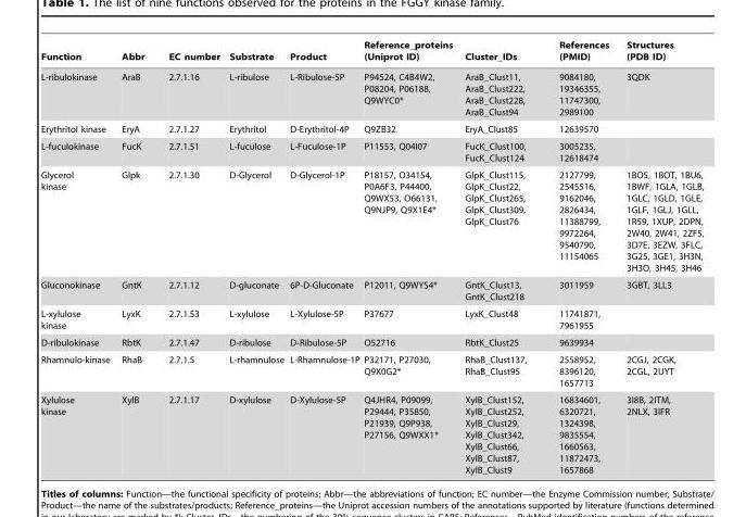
<table><thead><tr><td>Function</td><td>Abbr</td><td>EC number</td><td>Substrate</td><td>Product</td><td>Reference_proteins (Uniprot ID)</td><td>Cluster_IDs</td><td>References (PMID)</td><td>Structures (PDB ID)</td></tr></thead><tbody><tr><td>L-ribulokinase</td><td>AraB</td><td>2.7.1.16</td><td>L-ribulose</td><td>L-Ribulose-5P</td><td>P94524, C4B4W2, P08204, P06188, Q9WYC0*</td><td>AraB_Clust11, AraB_Clust222, AraB_Clust228, AraB_Clust94</td><td>9084180, 19346355, 11747300, 2989100</td><td>3QDK</td></tr><tr><td>Erythritol kinase</td><td>EryA</td><td>2.7.1.27</td><td>Erythritol</td><td>D-Erythritol-4P</td><td>Q9ZB32</td><td>EryA_Clust85</td><td>12639570</td><td></td></tr><tr><td>L-fuculokinase</td><td>FucK</td><td>2.7.1.51</td><td>L-fuculose</td><td>L-Fuculose-1P</td><td>P11553, Q04I07</td><td>FucK_Clust100, FucK_Clust124</td><td>3005235, 12618474</td><td></td></tr><tr><td>Glycerol kinase</td><td>Glpk</td><td>2.7.1.30</td><td>D-Glycerol</td><td>D-Glycerol-1P</td><td>P18157, O34154, P0A6F3, P44400, Q9WX53, O66131, Q9NJP9, Q9X1E4*</td><td>GlpK_Clust115, GlpK_Clust22, GlpK_Clust265, GlpK_Clust309, GlpK_Clust76</td><td>2127799, 2545516, 9162046, 2826434, 11388799, 9972264, 9540790, 11154065</td><td>1BO5, 1BOT, 1BU6, 1BWF, 1GLA, 1GLB, 1GLC, 1GLD, 1GLE, 1GLF, 1GLJ, 1GLL, 1R59, 1XUP, 2DPN, 2W40, 2W41, 2ZF5, 3D7E, 3EZW, 3FLC, 3G25, 3GE1, 3H3N, 3H3O, 3H45, 3H46</td></tr><tr><td>Gluconokinase</td><td>GntK</td><td>2.7.1.12</td><td>D-gluconate</td><td>6P-D-Gluconate</td><td>P12011, Q9WYS4*</td><td>GntK_Clust13, GntK_Clust218</td><td>3011959</td><td>3GBT, 3LL3</td></tr><tr><td>L-xylulose kinase</td><td>LyxK</td><td>2.7.1.53</td><td>L-xylulose</td><td>L-Xylulose-5P</td><td>P37677</td><td>LyxK_Clust48</td><td>11741871, 7961955</td><td></td></tr><tr><td>D-ribulokinase</td><td>RbtK</td><td>2.7.1.47</td><td>D-ribulose</td><td>D-Ribulose-5P</td><td>O52716</td><td>RbtK_Clust25</td><td>9639934</td><td></td></tr><tr><td>Rhamnulo-kinase</td><td>RhaB</td><td>2.7.1.5</td><td>L-rhamnulose</td><td>L-Rhamnulose-1P</td><td>P32171, P27030, Q9X0G2*</td><td>RhaB_Clust137, RhaB_Clust95</td><td>2558952, 8396120, 1657713</td><td>2CGJ, 2CGK, 2CGL, 2UYT</td></tr><tr><td>Xylulose kinase</td><td>XylB</td><td>2.7.1.17</td><td>D-xylulose</td><td>D-Xylulose-5P</td><td>Q4JHR4, P09099, P29444, P35850, P21939, Q9P938, P27156, Q9WXX1*</td><td>XylB_Clust152, XylB_Clust252, XylB_Clust29, XylB_Clust342, XylB_Clust66, XylB_Clust87, XylB_Clust9</td><td>16834601, 6320721, 1324398, 9835554, 1660563, 11872473, 1657868</td><td>3I8B, 2ITM, 2NLX, 3IFR</td></tr></tbody></table>